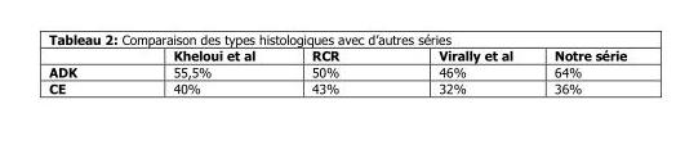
<table><thead><tr><td></td><td>Kheloui et al</td><td>RCR</td><td>Virally et al</td><td>Notre série</td></tr></thead><tbody><tr><td>ADK</td><td>55,5%</td><td>50%</td><td>46%</td><td>64%</td></tr><tr><td>CE</td><td>40%</td><td>43%</td><td>32%</td><td>36%</td></tr></tbody></table>